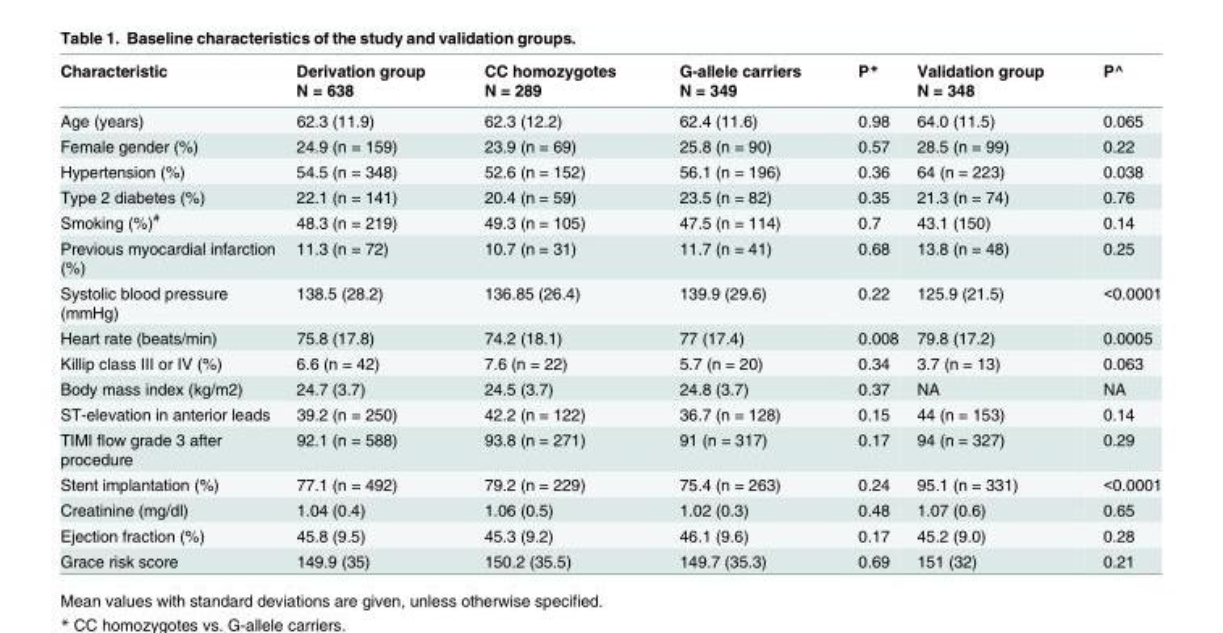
<table><thead><tr><td>Characteristic</td><td>Derivation group N = 638</td><td>CC homozygotes N = 289</td><td>G-allele carriers N = 349</td><td>P*</td><td>Validation group N = 348</td><td>P^</td></tr></thead><tbody><tr><td>Age (years)</td><td>62.3 (11.9)</td><td>62.3 (12.2)</td><td>62.4 (11.6)</td><td>0.98</td><td>64.0 (11.5)</td><td>0.065</td></tr><tr><td>Female gender (%)</td><td>24.9 (n = 159)</td><td>23.9 (n = 69)</td><td>25.8 (n = 90)</td><td>0.57</td><td>28.5 (n = 99)</td><td>0.22</td></tr><tr><td>Hypertension (%)</td><td>54.5 (n = 348)</td><td>52.6 (n = 152)</td><td>56.1 (n = 196)</td><td>0.36</td><td>64 (n = 223)</td><td>0.038</td></tr><tr><td>Type 2 diabetes (%)</td><td>22.1 (n = 141)</td><td>20.4 (n = 59)</td><td>23.5 (n = 82)</td><td>0.35</td><td>21.3 (n = 74)</td><td>0.76</td></tr><tr><td>Smoking (%)<sup>#</sup></td><td>48.3 (n = 219)</td><td>49.3 (n = 105)</td><td>47.5 (n = 114)</td><td>0.7</td><td>43.1 (150)</td><td>0.14</td></tr><tr><td>Previous myocardial infarction (%)</td><td>11.3 (n = 72)</td><td>10.7 (n = 31)</td><td>11.7 (n = 41)</td><td>0.68</td><td>13.8 (n = 48)</td><td>0.25</td></tr><tr><td>Systolic blood pressure (mmHg)</td><td>138.5 (28.2)</td><td>136.85 (26.4)</td><td>139.9 (29.6)</td><td>0.22</td><td>125.9 (21.5)</td><td>&lt;0.0001</td></tr><tr><td>Heart rate (beats/min)</td><td>75.8 (17.8)</td><td>74.2 (18.1)</td><td>77 (17.4)</td><td>0.008</td><td>79.8 (17.2)</td><td>0.0005</td></tr><tr><td>Killip class III or IV (%)</td><td>6.6 (n = 42)</td><td>7.6 (n = 22)</td><td>5.7 (n = 20)</td><td>0.34</td><td>3.7 (n = 13)</td><td>0.063</td></tr><tr><td>Body mass index (kg/m2)</td><td>24.7 (3.7)</td><td>24.5 (3.7)</td><td>24.8 (3.7)</td><td>0.37</td><td>NA</td><td>NA</td></tr><tr><td>ST-elevation in anterior leads</td><td>39.2 (n = 250)</td><td>42.2 (n = 122)</td><td>36.7 (n = 128)</td><td>0.15</td><td>44 (n = 153)</td><td>0.14</td></tr><tr><td>TIMI flow grade 3 after procedure</td><td>92.1 (n = 588)</td><td>93.8 (n = 271)</td><td>91 (n = 317)</td><td>0.17</td><td>94 (n = 327)</td><td>0.29</td></tr><tr><td>Stent implantation (%)</td><td>77.1 (n = 492)</td><td>79.2 (n = 229)</td><td>75.4 (n = 263)</td><td>0.24</td><td>95.1 (n = 331)</td><td>&lt;0.0001</td></tr><tr><td>Creatinine (mg/dl)</td><td>1.04 (0.4)</td><td>1.06 (0.5)</td><td>1.02 (0.3)</td><td>0.48</td><td>1.07 (0.6)</td><td>0.65</td></tr><tr><td>Ejection fraction (%)</td><td>45.8 (9.5)</td><td>45.3 (9.2)</td><td>46.1 (9.6)</td><td>0.17</td><td>45.2 (9.0)</td><td>0.28</td></tr><tr><td>Grace risk score</td><td>149.9 (35)</td><td>150.2 (35.5)</td><td>149.7 (35.3)</td><td>0.69</td><td>151 (32)</td><td>0.21</td></tr></tbody></table>